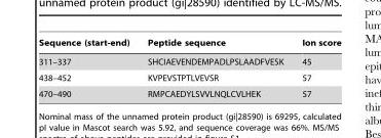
<table><thead><tr><td>Sequence (start-end)</td><td>Peptide sequence</td><td>Ion score</td></tr></thead><tbody><tr><td>311–337</td><td>SHCIAEVENDEMPADLPSLAADFVESK</td><td>45</td></tr><tr><td>438–452</td><td>KVPEVSTPTLVEVSR</td><td>57</td></tr><tr><td>470–490</td><td>RMPCAEDYLSVVLNQLCVLHEK</td><td>57</td></tr></tbody></table>